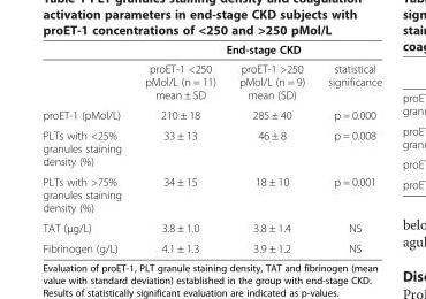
<table><thead><tr><td rowspan="2"></td><td colspan="3">End-stage CKD</td></tr><tr><td>proET-1 &lt;250 pMol/L (n = 11) mean ± SD</td><td>proET-1 &gt;250 pMol/L (n = 9) mean (SD)</td><td>statistical significance</td></tr></thead><tbody><tr><td>proET-1 (pMol/L)</td><td>210 ± 18</td><td>285 ± 40</td><td>p = 0.000</td></tr><tr><td>PLTs with &lt;25% granules staining density (%)</td><td>33 ± 13</td><td>46 ± 8</td><td>p = 0.008</td></tr><tr><td>PLTs with &gt;75% granules staining density (%)</td><td>34 ± 15</td><td>18 ± 10</td><td>p = 0.001</td></tr><tr><td>TAT (μg/L)</td><td>3.8 ± 1.0</td><td>3.8 ± 1.4</td><td>NS</td></tr><tr><td>Fibrinogen (g/L)</td><td>4.1 ± 1.3</td><td>3.9 ± 1.2</td><td>NS</td></tr></tbody></table>